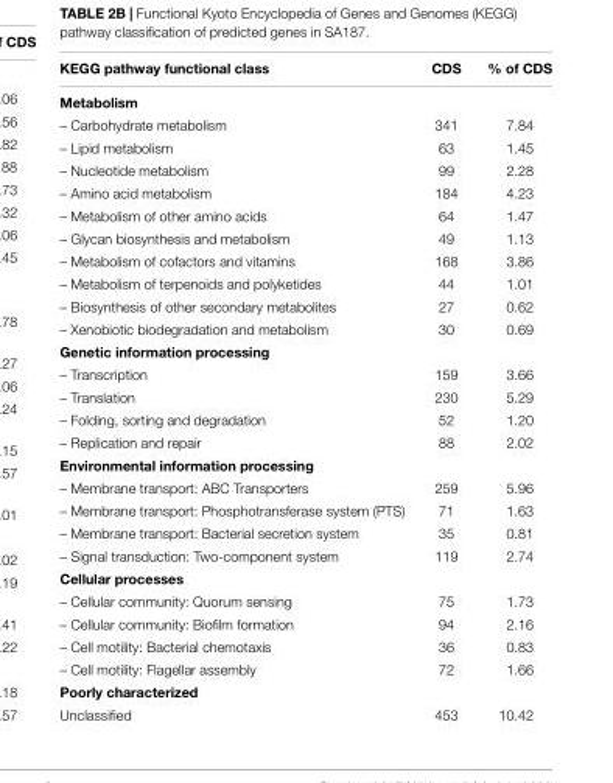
<table><thead><tr><td>KEGG pathway functional class</td><td>CDS</td><td>% of CDS</td></tr></thead><tbody><tr><td colspan="3">Metabolism</td></tr><tr><td>– Carbohydrate metabolism</td><td>341</td><td>7.84</td></tr><tr><td>– Lipid metabolism</td><td>63</td><td>1.45</td></tr><tr><td>– Nucleotide metabolism</td><td>99</td><td>2.28</td></tr><tr><td>– Amino acid metabolism</td><td>184</td><td>4.23</td></tr><tr><td>– Metabolism of other amino acids</td><td>64</td><td>1.47</td></tr><tr><td>– Glycan biosynthesis and metabolism</td><td>49</td><td>1.13</td></tr><tr><td>– Metabolism of cofactors and vitamins</td><td>168</td><td>3.86</td></tr><tr><td>– Metabolism of terpenoids and polyketides</td><td>44</td><td>1.01</td></tr><tr><td>– Biosynthesis of other secondary metabolites</td><td>27</td><td>0.62</td></tr><tr><td>– Xenobiotic biodegradation and metabolism</td><td>30</td><td>0.69</td></tr><tr><td colspan="3">Genetic information processing</td></tr><tr><td>– Transcription</td><td>159</td><td>3.66</td></tr><tr><td>– Translation</td><td>230</td><td>5.29</td></tr><tr><td>– Folding, sorting and degradation</td><td>52</td><td>1.20</td></tr><tr><td>– Replication and repair</td><td>88</td><td>2.02</td></tr><tr><td colspan="3">Environmental information processing</td></tr><tr><td>– Membrane transport: ABC Transporters</td><td>259</td><td>5.96</td></tr><tr><td>– Membrane transport: Phosphotransferase system (PTS)</td><td>71</td><td>1.63</td></tr><tr><td>– Membrane transport: Bacterial secretion system</td><td>35</td><td>0.81</td></tr><tr><td>– Signal transduction: Two-component system</td><td>119</td><td>2.74</td></tr><tr><td colspan="3">Cellular processes</td></tr><tr><td>– Cellular community: Quorum sensing</td><td>75</td><td>1.73</td></tr><tr><td>– Cellular community: Biofilm formation</td><td>94</td><td>2.16</td></tr><tr><td>– Cell motility: Bacterial chemotaxis</td><td>36</td><td>0.83</td></tr><tr><td>– Cell motility: Flagellar assembly</td><td>72</td><td>1.66</td></tr><tr><td colspan="3">Poorly characterized</td></tr><tr><td>Unclassified</td><td>453</td><td>10.42</td></tr></tbody></table>